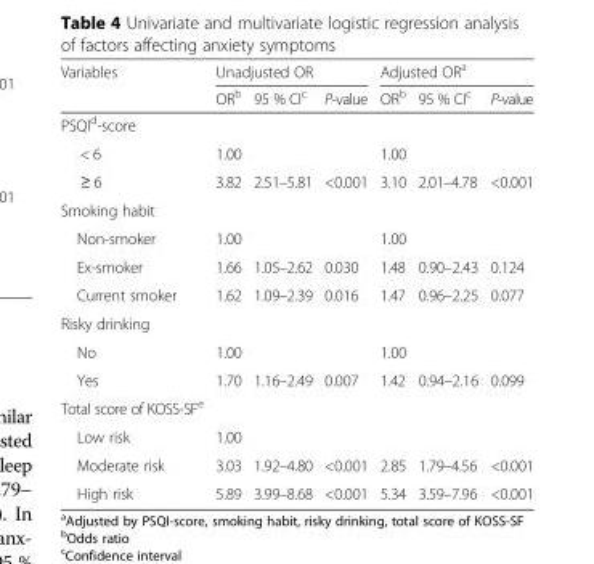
<table><thead><tr><td rowspan="2">Variables</td><td colspan="3">Unadjusted OR</td><td colspan="3">Adjusted OR<sup>a</sup></td></tr><tr><td>OR<sup>b</sup></td><td>95 % CI<sup>c</sup></td><td>P-value</td><td>OR<sup>b</sup></td><td>95 % CI<sup>c</sup></td><td>P-value</td></tr></thead><tbody><tr><td colspan="7">PSQI<sup>d</sup>-score</td></tr><tr><td>&lt; 6</td><td>1.00</td><td></td><td></td><td>1.00</td><td></td><td></td></tr><tr><td>≥ 6</td><td>3.82</td><td>2.51–5.81</td><td>&lt;0.001</td><td>3.10</td><td>2.01–4.78</td><td>&lt;0.001</td></tr><tr><td colspan="7">Smoking habit</td></tr><tr><td>Non-smoker</td><td>1.00</td><td></td><td></td><td>1.00</td><td></td><td></td></tr><tr><td>Ex-smoker</td><td>1.66</td><td>1.05–2.62</td><td>0.030</td><td>1.48</td><td>0.90–2.43</td><td>0.124</td></tr><tr><td>Current smoker</td><td>1.62</td><td>1.09–2.39</td><td>0.016</td><td>1.47</td><td>0.96–2.25</td><td>0.077</td></tr><tr><td colspan="7">Risky drinking</td></tr><tr><td>No</td><td>1.00</td><td></td><td></td><td>1.00</td><td></td><td></td></tr><tr><td>Yes</td><td>1.70</td><td>1.16–2.49</td><td>0.007</td><td>1.42</td><td>0.94–2.16</td><td>0.099</td></tr><tr><td colspan="7">Total score of KOSS-SF<sup>e</sup></td></tr><tr><td>Low risk</td><td>1.00</td><td></td><td></td><td></td><td></td><td></td></tr><tr><td>Moderate risk</td><td>3.03</td><td>1.92–4.80</td><td>&lt;0.001</td><td>2.85</td><td>1.79–4.56</td><td>&lt;0.001</td></tr><tr><td>High risk</td><td>5.89</td><td>3.99–8.68</td><td>&lt;0.001</td><td>5.34</td><td>3.59–7.96</td><td>&lt;0.001</td></tr></tbody></table>